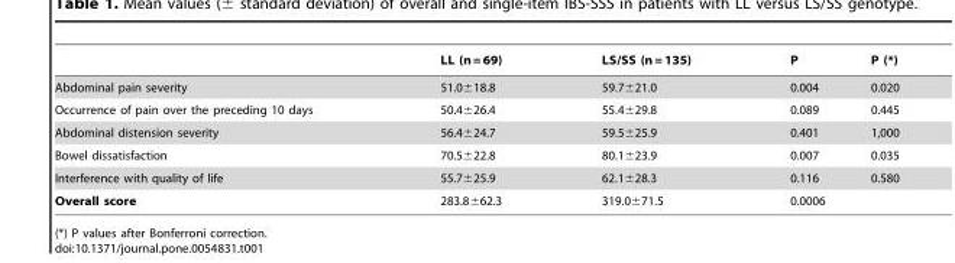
<table><thead><tr><td></td><td>LL (n = 69)</td><td>LS/SS (n = 135)</td><td>P</td><td>P (*)</td></tr></thead><tbody><tr><td>Abdominal pain severity</td><td>51.0±18.8</td><td>59.7±21.0</td><td>0.004</td><td>0.020</td></tr><tr><td>Occurrence of pain over the preceding 10 days</td><td>50.4±26.4</td><td>55.4±29.8</td><td>0.089</td><td>0.445</td></tr><tr><td>Abdominal distension severity</td><td>56.4±24.7</td><td>59.5±25.9</td><td>0.401</td><td>1,000</td></tr><tr><td>Bowel dissatisfaction</td><td>70.5±22.8</td><td>80.1±23.9</td><td>0.007</td><td>0.035</td></tr><tr><td>Interference with quality of life</td><td>55.7±25.9</td><td>62.1±28.3</td><td>0.116</td><td>0.580</td></tr><tr><td>Overall score</td><td>283.8±62.3</td><td>319.0±71.5</td><td>0.0006</td><td></td></tr></tbody></table>